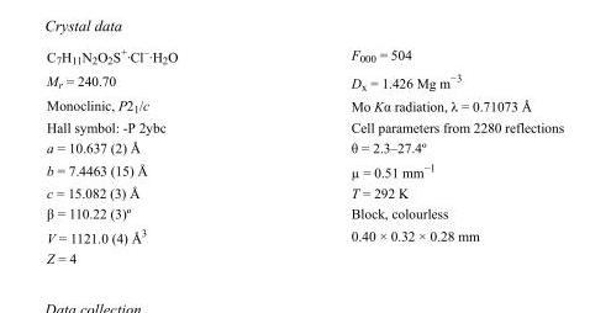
<table><tbody><tr><td>C<sub>7</sub>H<sub>11</sub>N<sub>2</sub>O<sub>2</sub>S<sup>+</sup>·Cl<sup>–</sup>·H<sub>2</sub>O</td><td>F000 = 504</td></tr><tr><td>M<sub>r</sub> = 240.70</td><td>D<sub>x</sub> = 1.426 Mg m<sup>−3</sup></td></tr><tr><td>Monoclinic, P2<sub>1</sub>/c</td><td>Mo Kα radiation, λ = 0.71073 Å</td></tr><tr><td>Hall symbol: -P 2ybc</td><td>Cell parameters from 2280 reflections</td></tr><tr><td>a = 10.637 (2) Å</td><td>θ = 2.3–27.4º</td></tr><tr><td>b = 7.4463 (15) Å</td><td>µ = 0.51 mm<sup>−1</sup></td></tr><tr><td>c = 15.082 (3) Å</td><td>T = 292 K</td></tr><tr><td>β = 110.22 (3)º</td><td>Block, colourless</td></tr><tr><td>V = 1121.0 (4) Å<sup>3</sup></td><td>0.40 × 0.32 × 0.28 mm</td></tr><tr><td>Z = 4</td><td></td></tr></tbody></table>